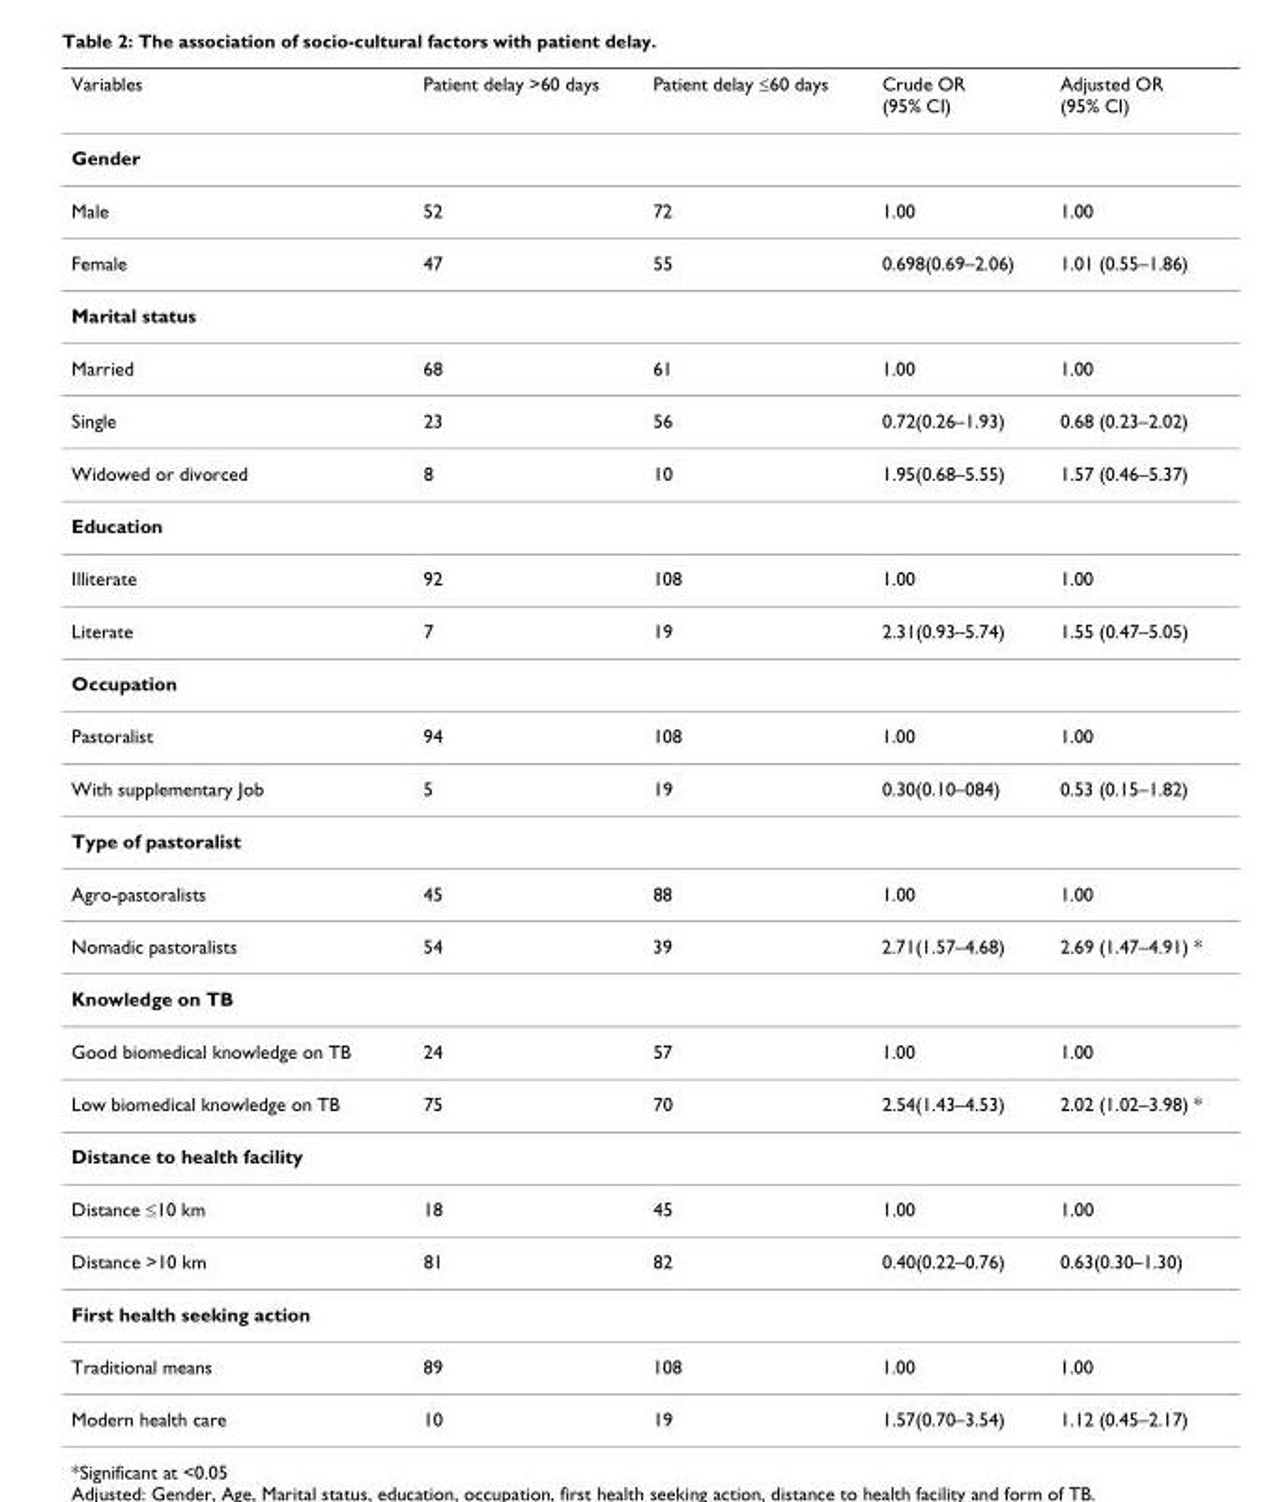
<table><thead><tr><td>Variables</td><td>Patient delay &gt;60 days</td><td>Patient delay ≤60 days</td><td>Crude OR (95% CI)</td><td>Adjusted OR (95% CI)</td></tr></thead><tbody><tr><td colspan="5">Gender</td></tr><tr><td>Male</td><td>52</td><td>72</td><td>1.00</td><td>1.00</td></tr><tr><td>Female</td><td>47</td><td>55</td><td>0.698(0.69–2.06)</td><td>1.01 (0.55–1.86)</td></tr><tr><td colspan="5">Marital status</td></tr><tr><td>Married</td><td>68</td><td>61</td><td>1.00</td><td>1.00</td></tr><tr><td>Single</td><td>23</td><td>56</td><td>0.72(0.26–1.93)</td><td>0.68 (0.23–2.02)</td></tr><tr><td>Widowed or divorced</td><td>8</td><td>10</td><td>1.95(0.68–5.55)</td><td>1.57 (0.46–5.37)</td></tr><tr><td colspan="5">Education</td></tr><tr><td>Illiterate</td><td>92</td><td>108</td><td>1.00</td><td>1.00</td></tr><tr><td>Literate</td><td>7</td><td>19</td><td>2.31(0.93–5.74)</td><td>1.55 (0.47–5.05)</td></tr><tr><td colspan="5">Occupation</td></tr><tr><td>Pastoralist</td><td>94</td><td>108</td><td>1.00</td><td>1.00</td></tr><tr><td>With supplementary Job</td><td>5</td><td>19</td><td>0.30(0.10–084)</td><td>0.53 (0.15–1.82)</td></tr><tr><td colspan="5">Type of pastoralist</td></tr><tr><td>Agro-pastoralists</td><td>45</td><td>88</td><td>1.00</td><td>1.00</td></tr><tr><td>Nomadic pastoralists</td><td>54</td><td>39</td><td>2.71(1.57–4.68)</td><td>2.69 (1.47–4.91) *</td></tr><tr><td colspan="5">Knowledge on TB</td></tr><tr><td>Good biomedical knowledge on TB</td><td>24</td><td>57</td><td>1.00</td><td>1.00</td></tr><tr><td>Low biomedical knowledge on TB</td><td>75</td><td>70</td><td>2.54(1.43–4.53)</td><td>2.02 (1.02–3.98) *</td></tr><tr><td colspan="5">Distance to health facility</td></tr><tr><td>Distance ≤10 km</td><td>18</td><td>45</td><td>1.00</td><td>1.00</td></tr><tr><td>Distance &gt;10 km</td><td>81</td><td>82</td><td>0.40(0.22–0.76)</td><td>0.63(0.30–1.30)</td></tr><tr><td colspan="5">First health seeking action</td></tr><tr><td>Traditional means</td><td>89</td><td>108</td><td>1.00</td><td>1.00</td></tr><tr><td>Modern health care</td><td>10</td><td>19</td><td>1.57(0.70–3.54)</td><td>1.12 (0.45–2.17)</td></tr></tbody></table>